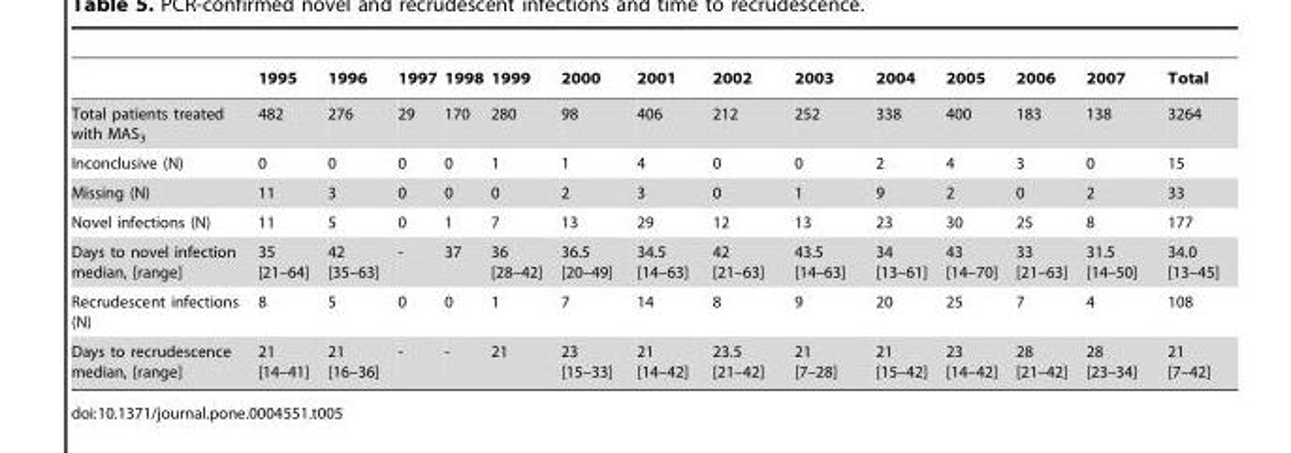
<table><thead><tr><td></td><td>1995</td><td>1996</td><td>1997</td><td>1998</td><td>1999</td><td>2000</td><td>2001</td><td>2002</td><td>2003</td><td>2004</td><td>2005</td><td>2006</td><td>2007</td><td>Total</td></tr></thead><tbody><tr><td>Total patients treated with MAS<sub>3</sub></td><td>482</td><td>276</td><td>29</td><td>170</td><td>280</td><td>98</td><td>406</td><td>212</td><td>252</td><td>338</td><td>400</td><td>183</td><td>138</td><td>3264</td></tr><tr><td>Inconclusive (N)</td><td>0</td><td>0</td><td>0</td><td>0</td><td>1</td><td>1</td><td>4</td><td>0</td><td>0</td><td>2</td><td>4</td><td>3</td><td>0</td><td>15</td></tr><tr><td>Missing (N)</td><td>11</td><td>3</td><td>0</td><td>0</td><td>0</td><td>2</td><td>3</td><td>0</td><td>1</td><td>9</td><td>2</td><td>0</td><td>2</td><td>33</td></tr><tr><td>Novel infections (N)</td><td>11</td><td>5</td><td>0</td><td>1</td><td>7</td><td>13</td><td>29</td><td>12</td><td>13</td><td>23</td><td>30</td><td>25</td><td>8</td><td>177</td></tr><tr><td>Days to novel infection median, [range]</td><td>35 [21–64]</td><td>42 [35–63]</td><td>-</td><td>37</td><td>36 [28–42]</td><td>36.5 [20–49]</td><td>34.5 [14–63]</td><td>42 [21–63]</td><td>43.5 [14–63]</td><td>34 [13–61]</td><td>43 [14–70]</td><td>33 [21–63]</td><td>31.5 [14–50]</td><td>34.0 [13–45]</td></tr><tr><td>Recrudescent infections (N)</td><td>8</td><td>5</td><td>0</td><td>0</td><td>1</td><td>7</td><td>14</td><td>8</td><td>9</td><td>20</td><td>25</td><td>7</td><td>4</td><td>108</td></tr><tr><td>Days to recrudescence median, [range]</td><td>21 [14–41]</td><td>21 [16–36]</td><td>-</td><td>-</td><td>21</td><td>23 [15–33]</td><td>21 [14–42]</td><td>23.5 [21–42]</td><td>21 [7–28]</td><td>21 [15–42]</td><td>23 [14–42]</td><td>28 [21–42]</td><td>28 [23–34]</td><td>21 [7–42]</td></tr></tbody></table>